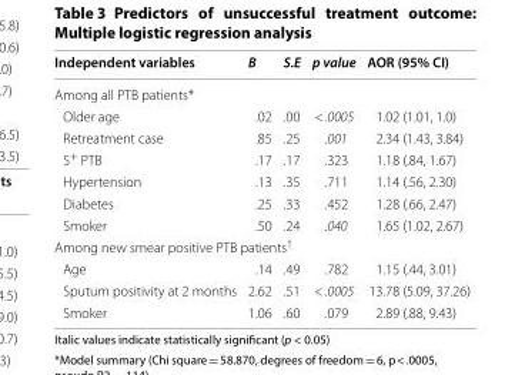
<table><thead><tr><td>Independent variables</td><td>B</td><td>S.E</td><td>p value</td><td>AOR (95% CI)</td></tr></thead><tbody><tr><td colspan="5">Among all PTB patients*</td></tr><tr><td>Older age</td><td>.02</td><td>.00</td><td>&lt; .0005</td><td>1.02 (1.01, 1.0)</td></tr><tr><td>Retreatment case</td><td>.85</td><td>.25</td><td>.001</td><td>2.34 (1.43, 3.84)</td></tr><tr><td>S<sup>+</sup> PTB</td><td>.17</td><td>.17</td><td>.323</td><td>1.18 (.84, 1.67)</td></tr><tr><td>Hypertension</td><td>.13</td><td>.35</td><td>.711</td><td>1.14 (.56, 2.30)</td></tr><tr><td>Diabetes</td><td>.25</td><td>.33</td><td>.452</td><td>1.28 (.66, 2.47)</td></tr><tr><td>Smoker</td><td>.50</td><td>.24</td><td>.040</td><td>1.65 (1.02, 2.67)</td></tr><tr><td colspan="5">Among new smear positive PTB patients<sup>†</sup></td></tr><tr><td>Age</td><td>.14</td><td>.49</td><td>.782</td><td>1.15 (.44, 3.01)</td></tr><tr><td>Sputum positivity at 2 months</td><td>2.62</td><td>.51</td><td>&lt; .0005</td><td>13.78 (5.09, 37.26)</td></tr><tr><td>Smoker</td><td>1.06</td><td>.60</td><td>.079</td><td>2.89 (.88, 9.43)</td></tr></tbody></table>